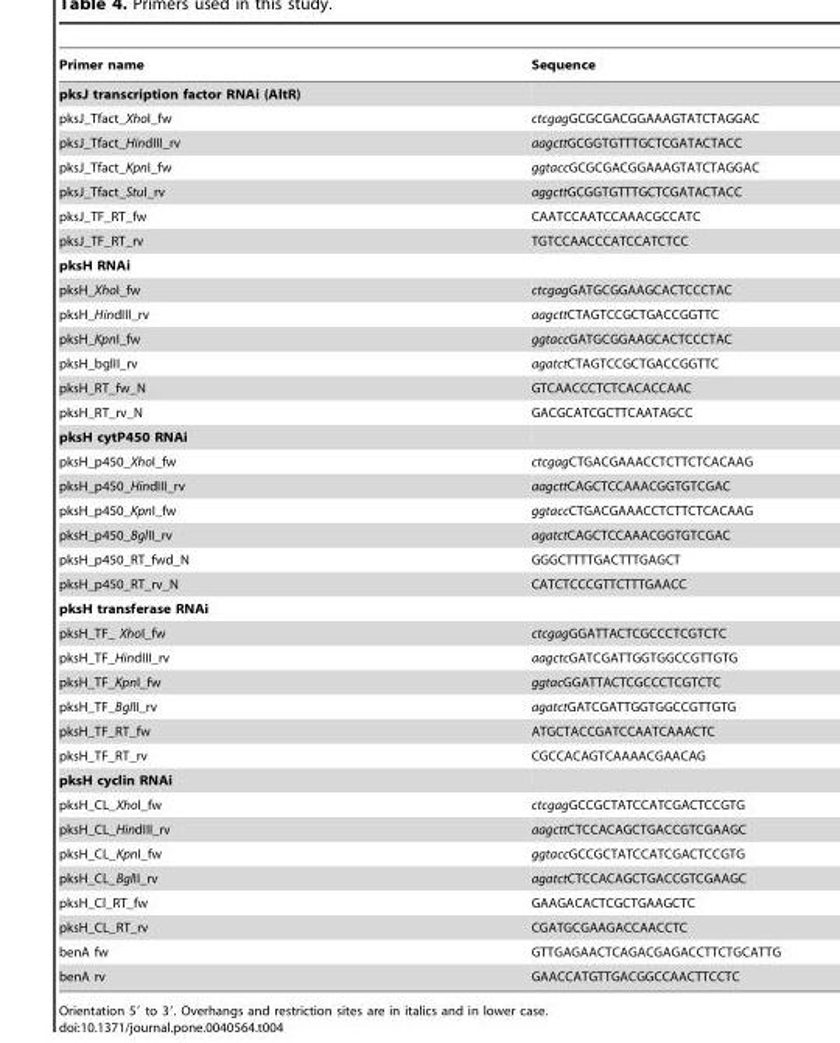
<table><thead><tr><td>Primer name</td><td>Sequence</td></tr></thead><tbody><tr><td colspan="2">pksJ transcription factor RNAi (AltR)</td></tr><tr><td>pksJ_Tfact_XhoI_fw</td><td>ctcgagGCGCGACGGAAAGTATCTAGGAC</td></tr><tr><td>pksJ_Tfact_HindIII_rv</td><td>aagcttGCGGTGTTTGCTCGATACTACC</td></tr><tr><td>pksJ_Tfact_KpnI_fw</td><td>ggtaccGCGCGACGGAAAGTATCTAGGAC</td></tr><tr><td>pksJ_Tfact_StuI_rv</td><td>aggcttGCGGTGTTTGCTCGATACTACC</td></tr><tr><td>pksJ_TF_RT_fw</td><td>CAATCCAATCCAAACGCCATC</td></tr><tr><td>pksJ_TF_RT_rv</td><td>TGTCCAACCCATCCATCTCC</td></tr><tr><td colspan="2">pksH RNAi</td></tr><tr><td>pksH_XhoI_fw</td><td>ctcgagGATGCGGAAGCACTCCCTAC</td></tr><tr><td>pksH_HindIII_rv</td><td>aagcttCTAGTCCGCTGACCGGTTC</td></tr><tr><td>pksH_KpnI_fw</td><td>ggtaccGATGCGGAAGCACTCCCTAC</td></tr><tr><td>pksH_bglII_rv</td><td>agatctCTAGTCCGCTGACCGGTTC</td></tr><tr><td>pksH_RT_fw_N</td><td>GTCAACCCTCTCACACCAAC</td></tr><tr><td>pksH_RT_rv_N</td><td>GACGCATCGCTTCAATAGCC</td></tr><tr><td colspan="2">pksH cytP450 RNAi</td></tr><tr><td>pksH_p450_XhoI_fw</td><td>ctcgagCTGACGAAACCTCTTCTCACAAG</td></tr><tr><td>pksH_p450_HindIII_rv</td><td>aagcttCAGCTCCAAACGGTGTCGAC</td></tr><tr><td>pksH_p450_KpnI_fw</td><td>ggtaccCTGACGAAACCTCTTCTCACAAG</td></tr><tr><td>pksH_p450_BglII_rv</td><td>agatctCAGCTCCAAACGGTGTCGAC</td></tr><tr><td>pksH_p450_RT_fwd_N</td><td>GGGCTTTTGACTTTGAGCT</td></tr><tr><td>pksH_p450_RT_rv_N</td><td>CATCTCCCGTTCTTTGAACC</td></tr><tr><td colspan="2">pksH transferase RNAi</td></tr><tr><td>pksH_TF_ XhoI_fw</td><td>ctcgagGGATTACTCGCCCTCGTCTC</td></tr><tr><td>pksH_TF_HindIII_rv</td><td>aagctcGATCGATTGGTGGCCGTTGTG</td></tr><tr><td>pksH_TF_KpnI_fw</td><td>ggtacGGATTACTCGCCCTCGTCTC</td></tr><tr><td>pksH_TF_BglII_rv</td><td>agatctGATCGATTGGTGGCCGTTGTG</td></tr><tr><td>pksH_TF_RT_fw</td><td>ATGCTACCGATCCAATCAAACTC</td></tr><tr><td>pksH_TF_RT_rv</td><td>CGCCACAGTCAAAACGAACAG</td></tr><tr><td colspan="2">pksH cyclin RNAi</td></tr><tr><td>pksH_CL_XhoI_fw</td><td>ctcgagGCCGCTATCCATCGACTCCGTG</td></tr><tr><td>pksH_CL_HindIII_rv</td><td>aagcttCTCCACAGCTGACCGTCGAAGC</td></tr><tr><td>pksH_CL_KpnI_fw</td><td>ggtaccGCCGCTATCCATCGACTCCGTG</td></tr><tr><td>pksH_CL_BglII_rv</td><td>agatctCTCCACAGCTGACCGTCGAAGC</td></tr><tr><td>pksH_Cl_RT_fw</td><td>GAAGACACTCGCTGAAGCTC</td></tr><tr><td>pksH_CL_RT_rv</td><td>CGATGCGAAGACCAACCTC</td></tr><tr><td>benA fw</td><td>GTTGAGAACTCAGACGAGACCTTCTGCATTG</td></tr><tr><td>benA rv</td><td>GAACCATGTTGACGGCCAACTTCCTC</td></tr></tbody></table>